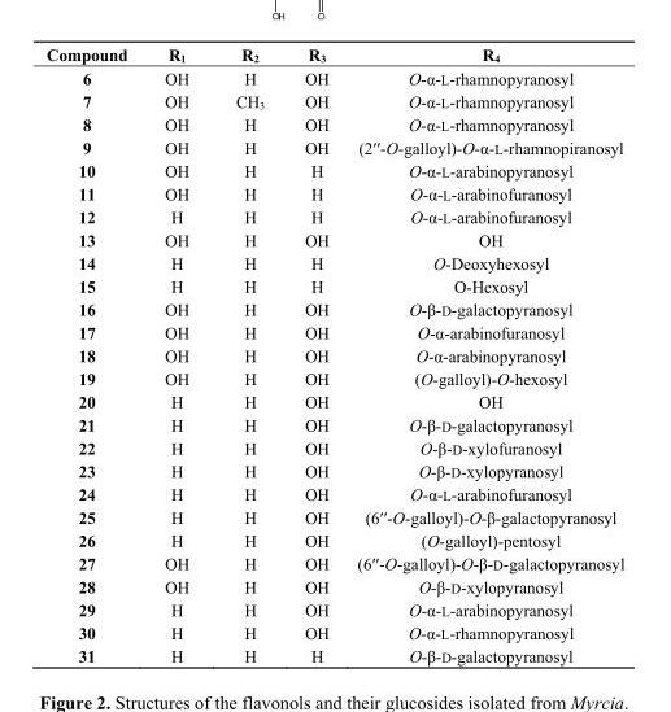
<table><thead><tr><td>Compound</td><td>R<sub>1</sub></td><td>R<sub>2</sub></td><td>R<sub>3</sub></td><td>R<sub>4</sub></td></tr></thead><tbody><tr><td>6</td><td>OH</td><td>H</td><td>OH</td><td>O-α-L-rhamnopyranosyl</td></tr><tr><td>7</td><td>OH</td><td>CH<sub>3</sub></td><td>OH</td><td>O-α-L-rhamnopyranosyl</td></tr><tr><td>8</td><td>OH</td><td>H</td><td>OH</td><td>O-α-L-rhamnopyranosyl</td></tr><tr><td>9</td><td>OH</td><td>H</td><td>OH</td><td>(2ʹʹ-O-galloyl)-O-α-L-rhamnopiranosyl</td></tr><tr><td>10</td><td>OH</td><td>H</td><td>H</td><td>O-α-L-arabinopyranosyl</td></tr><tr><td>11</td><td>OH</td><td>H</td><td>H</td><td>O-α-L-arabinofuranosyl</td></tr><tr><td>12</td><td>H</td><td>H</td><td>H</td><td>O-α-L-arabinofuranosyl</td></tr><tr><td>13</td><td>OH</td><td>H</td><td>OH</td><td>OH</td></tr><tr><td>14</td><td>H</td><td>H</td><td>H</td><td>O-Deoxyhexosyl</td></tr><tr><td>15</td><td>H</td><td>H</td><td>H</td><td>O-Hexosyl</td></tr><tr><td>16</td><td>OH</td><td>H</td><td>OH</td><td>O-β-D-galactopyranosyl</td></tr><tr><td>17</td><td>OH</td><td>H</td><td>OH</td><td>O-α-arabinofuranosyl</td></tr><tr><td>18</td><td>OH</td><td>H</td><td>OH</td><td>O-α-arabinopyranosyl</td></tr><tr><td>19</td><td>OH</td><td>H</td><td>OH</td><td>(O-galloyl)-O-hexosyl</td></tr><tr><td>20</td><td>H</td><td>H</td><td>OH</td><td>OH</td></tr><tr><td>21</td><td>H</td><td>H</td><td>OH</td><td>O-β-D-galactopyranosyl</td></tr><tr><td>22</td><td>H</td><td>H</td><td>OH</td><td>O-β-D-xylofuranosyl</td></tr><tr><td>23</td><td>H</td><td>H</td><td>OH</td><td>O-β-D-xylopyranosyl</td></tr><tr><td>24</td><td>H</td><td>H</td><td>OH</td><td>O-α-L-arabinofuranosyl</td></tr><tr><td>25</td><td>H</td><td>H</td><td>OH</td><td>(6ʹʹ-O-galloyl)-O-β-galactopyranosyl</td></tr><tr><td>26</td><td>H</td><td>H</td><td>OH</td><td>(O-galloyl)-pentosyl</td></tr><tr><td>27</td><td>OH</td><td>H</td><td>OH</td><td>(6ʹʹ-O-galloyl)-O-β-D-galactopyranosyl</td></tr><tr><td>28</td><td>OH</td><td>H</td><td>OH</td><td>O-β-D-xylopyranosyl</td></tr><tr><td>29</td><td>H</td><td>H</td><td>OH</td><td>O-α-L-arabinopyranosyl</td></tr><tr><td>30</td><td>H</td><td>H</td><td>OH</td><td>O-α-L-rhamnopyranosyl</td></tr><tr><td>31</td><td>H</td><td>H</td><td>H</td><td>O-β-D-galactopyranosyl</td></tr></tbody></table>